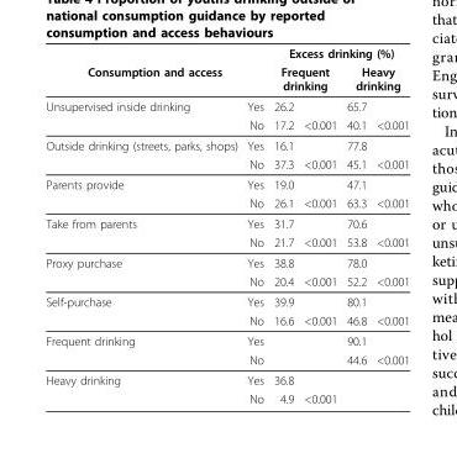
<table><thead><tr><td></td><td></td><td colspan="4">Excess drinking (%)</td></tr><tr><td colspan="2">Consumption and access</td><td colspan="2">Frequent drinking</td><td colspan="2">Heavy drinking</td></tr><tr><td>Unsupervised inside drinking</td><td>Yes</td><td>26.2</td><td></td><td>65.7</td><td></td></tr></thead><tbody><tr><td></td><td>No</td><td>17.2</td><td>&lt;0.001</td><td>40.1</td><td>&lt;0.001</td></tr><tr><td rowspan="2">Outside drinking (streets, parks, shops)</td><td>Yes</td><td>16.1</td><td></td><td>77.8</td><td></td></tr><tr><td>No</td><td>37.3</td><td>&lt;0.001</td><td>45.1</td><td>&lt;0.001</td></tr><tr><td rowspan="2">Parents provide</td><td>Yes</td><td>19.0</td><td></td><td>47.1</td><td></td></tr><tr><td>No</td><td>26.1</td><td>&lt;0.001</td><td>63.3</td><td>&lt;0.001</td></tr><tr><td rowspan="2">Take from parents</td><td>Yes</td><td>31.7</td><td></td><td>70.6</td><td></td></tr><tr><td>No</td><td>21.7</td><td>&lt;0.001</td><td>53.8</td><td>&lt;0.001</td></tr><tr><td rowspan="2">Proxy purchase</td><td>Yes</td><td>38.8</td><td></td><td>78.0</td><td></td></tr><tr><td>No</td><td>20.4</td><td>&lt;0.001</td><td>52.2</td><td>&lt;0.001</td></tr><tr><td rowspan="2">Self-purchase</td><td>Yes</td><td>39.9</td><td></td><td>80.1</td><td></td></tr><tr><td>No</td><td>16.6</td><td>&lt;0.001</td><td>46.8</td><td>&lt;0.001</td></tr><tr><td rowspan="2">Frequent drinking</td><td>Yes</td><td></td><td></td><td>90.1</td><td></td></tr><tr><td>No</td><td></td><td></td><td>44.6</td><td>&lt;0.001</td></tr><tr><td rowspan="2">Heavy drinking</td><td>Yes</td><td>36.8</td><td></td><td></td><td></td></tr><tr><td>No</td><td>4.9</td><td>&lt;0.001</td><td></td><td></td></tr></tbody></table>